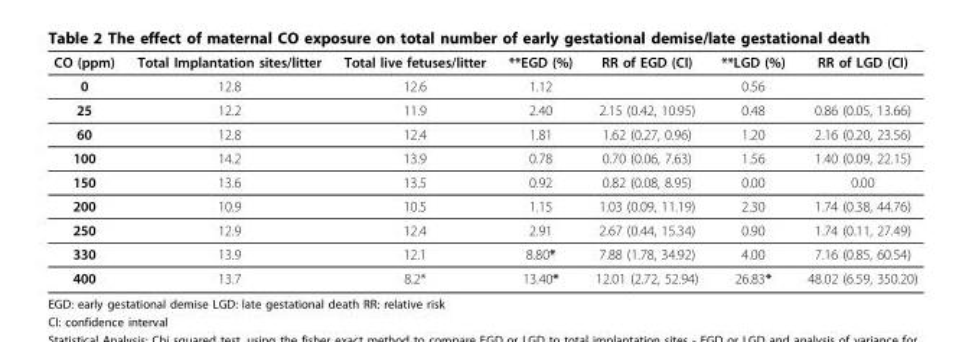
<table><thead><tr><td>CO (ppm)</td><td>Total Implantation sites/litter</td><td>Total live fetuses/litter</td><td>**EGD (%)</td><td>RR of EGD (CI)</td><td>**LGD (%)</td><td>RR of LGD (CI)</td></tr></thead><tbody><tr><td>0</td><td>12.8</td><td>12.6</td><td>1.12</td><td></td><td>0.56</td><td></td></tr><tr><td>25</td><td>12.2</td><td>11.9</td><td>2.40</td><td>2.15 (0.42, 10.95)</td><td>0.48</td><td>0.86 (0.05, 13.66)</td></tr><tr><td>60</td><td>12.8</td><td>12.4</td><td>1.81</td><td>1.62 (0.27, 0.96)</td><td>1.20</td><td>2.16 (0.20, 23.56)</td></tr><tr><td>100</td><td>14.2</td><td>13.9</td><td>0.78</td><td>0.70 (0.06, 7.63)</td><td>1.56</td><td>1.40 (0.09, 22.15)</td></tr><tr><td>150</td><td>13.6</td><td>13.5</td><td>0.92</td><td>0.82 (0.08, 8.95)</td><td>0.00</td><td>0.00</td></tr><tr><td>200</td><td>10.9</td><td>10.5</td><td>1.15</td><td>1.03 (0.09, 11.19)</td><td>2.30</td><td>1.74 (0.38, 44.76)</td></tr><tr><td>250</td><td>12.9</td><td>12.4</td><td>2.91</td><td>2.67 (0.44, 15.34)</td><td>0.90</td><td>1.74 (0.11, 27.49)</td></tr><tr><td>330</td><td>13.9</td><td>12.1</td><td>8.80*</td><td>7.88 (1.78, 34.92)</td><td>4.00</td><td>7.16 (0.85, 60.54)</td></tr><tr><td>400</td><td>13.7</td><td>8.2*</td><td>13.40*</td><td>12.01 (2.72, 52.94)</td><td>26.83*</td><td>48.02 (6.59, 350.20)</td></tr></tbody></table>